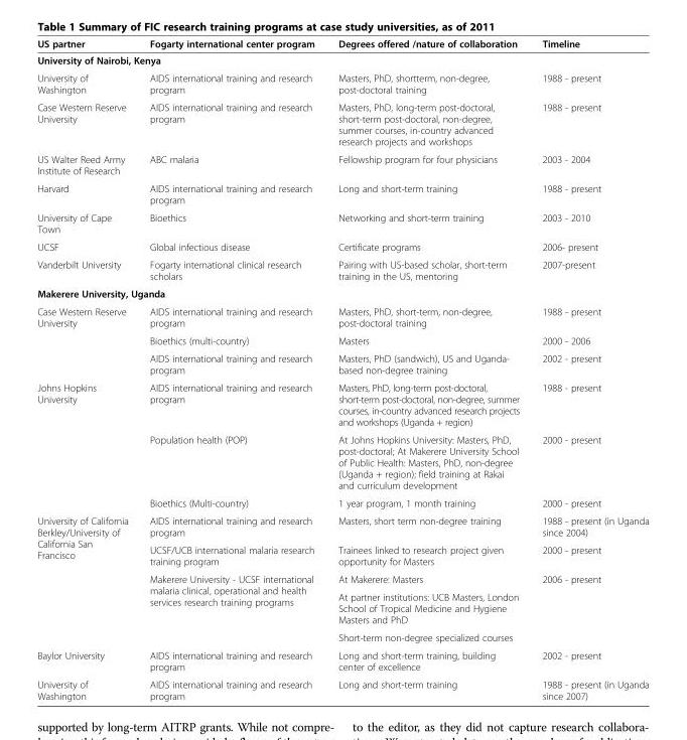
<table><thead><tr><td>US partner</td><td>Fogarty international center program</td><td>Degrees offered /nature of collaboration</td><td>Timeline</td></tr></thead><tbody><tr><td colspan="4">University of Nairobi, Kenya</td></tr><tr><td>University of Washington</td><td>AIDS international training and research program</td><td>Masters, PhD, shortterm, non-degree, post-doctoral training</td><td>1988 - present</td></tr><tr><td>Case Western Reserve University</td><td>AIDS international training and research program</td><td>Masters, PhD, long-term post-doctoral, short-term post-doctoral, non-degree, summer courses, in-country advanced research projects and workshops</td><td>1988 - present</td></tr><tr><td>US Walter Reed Army Institute of Research</td><td>ABC malaria</td><td>Fellowship program for four physicians</td><td>2003 - 2004</td></tr><tr><td>Harvard</td><td>AIDS international training and research program</td><td>Long and short-term training</td><td>1988 - present</td></tr><tr><td>University of Cape Town</td><td>Bioethics</td><td>Networking and short-term training</td><td>2003 - 2010</td></tr><tr><td>UCSF</td><td>Global infectious disease</td><td>Certificate programs</td><td>2006- present</td></tr><tr><td>Vanderbilt University</td><td>Fogarty international clinical research scholars</td><td>Pairing with US-based scholar, short-term training in the US, mentoring</td><td>2007-present</td></tr><tr><td colspan="4">Makerere University, Uganda</td></tr><tr><td rowspan="3">Case Western Reserve University</td><td>AIDS international training and research program</td><td>Masters, PhD, short-term, non-degree, post-doctoral training</td><td>1988 - present</td></tr><tr><td>Bioethics (multi-country)</td><td>Masters</td><td>2000 - 2006</td></tr><tr><td>AIDS international training and research program</td><td>Masters, PhD (sandwich), US and Uganda- based non-degree training</td><td>2002 - present</td></tr><tr><td rowspan="3">Johns Hopkins University</td><td>AIDS international training and research program</td><td>Masters, PhD, long-term post-doctoral, short-term post-doctoral, non-degree, summer courses, in-country advanced research projects and workshops (Uganda + region)</td><td>1988 - present</td></tr><tr><td>Population health (POP)</td><td>At Johns Hopkins University: Masters, PhD, post-doctoral; At Makerere University School of Public Health: Masters, PhD, non-degree (Uganda + region); field training at Rakai and curriculum development</td><td>2000 - present</td></tr><tr><td>Bioethics (Multi-country)</td><td>1 year program, 1 month training</td><td>2000 - present</td></tr><tr><td rowspan="5">University of California Berkley/University of California San Francisco</td><td>AIDS international training and research program</td><td>Masters, short term non-degree training</td><td>1988 - present (in Uganda since 2004)</td></tr><tr><td>UCSF/UCB international malaria research training program</td><td>Trainees linked to research project given opportunity for Masters</td><td>2000 - present</td></tr><tr><td rowspan="3">Makerere University - UCSF international malaria clinical, operational and health services research training programs</td><td>At Makerere: Masters</td><td rowspan="3">2006 - present</td></tr><tr><td>At partner institutions: UCB Masters, London School of Tropical Medicine and Hygiene Masters and PhD</td></tr><tr><td>Short-term non-degree specialized courses</td></tr><tr><td>Baylor University</td><td>AIDS international training and research program</td><td>Long and short-term training, building center of excellence</td><td>2002 - present</td></tr><tr><td>University of Washington</td><td>AIDS international training and research program</td><td>Long and short-term training</td><td>1988 - present (in Uganda since 2007)</td></tr></tbody></table>